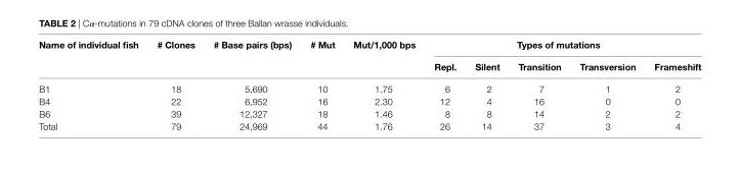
<table><thead><tr><td rowspan="2">name of individual fish</td><td rowspan="2"># clones</td><td rowspan="2"># Base pairs (bps)</td><td rowspan="2"># Mut</td><td rowspan="2">Mut/1,000 bps</td><td colspan="5">Types of mutations</td></tr><tr><td>repl.</td><td>silent</td><td>Transition</td><td>Transversion</td><td>Frameshift</td></tr></thead><tbody><tr><td>B1</td><td>18</td><td>5,690</td><td>10</td><td>1.75</td><td>6</td><td>2</td><td>7</td><td>1</td><td>2</td></tr><tr><td>B4</td><td>22</td><td>6,952</td><td>16</td><td>2.30</td><td>12</td><td>4</td><td>16</td><td>0</td><td>0</td></tr><tr><td>B6</td><td>39</td><td>12,327</td><td>18</td><td>1.46</td><td>8</td><td>8</td><td>14</td><td>2</td><td>2</td></tr><tr><td>Total</td><td>79</td><td>24,969</td><td>44</td><td>1.76</td><td>26</td><td>14</td><td>37</td><td>3</td><td>4</td></tr></tbody></table>